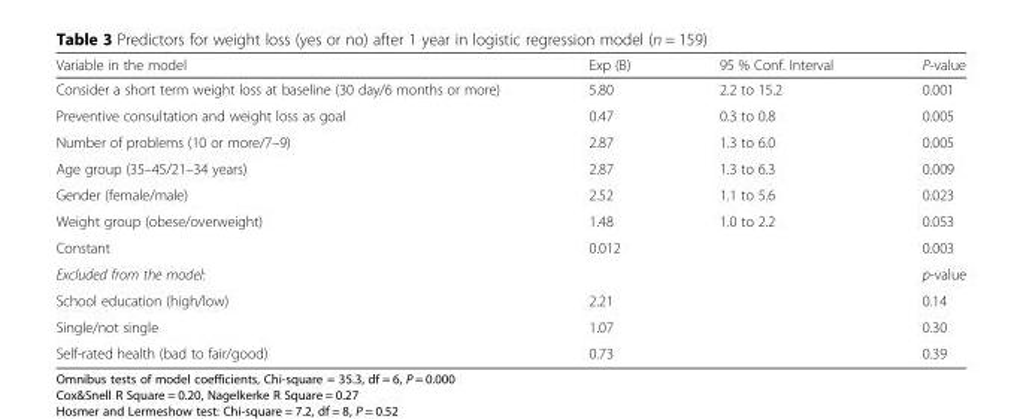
<table><thead><tr><td>Variable in the model</td><td>Exp (B)</td><td>95 % Conf. Interval</td><td>P-value</td></tr></thead><tbody><tr><td>Consider a short term weight loss at baseline (30 day/6 months or more)</td><td>5.80</td><td>2.2 to 15.2</td><td>0.001</td></tr><tr><td>Preventive consultation and weight loss as goal</td><td>0.47</td><td>0.3 to 0.8</td><td>0.005</td></tr><tr><td>Number of problems (10 or more/7–9)</td><td>2.87</td><td>1.3 to 6.0</td><td>0.005</td></tr><tr><td>Age group (35–45/21–34 years)</td><td>2.87</td><td>1.3 to 6.3</td><td>0.009</td></tr><tr><td>Gender (female/male)</td><td>2.52</td><td>1.1 to 5.6</td><td>0.023</td></tr><tr><td>Weight group (obese/overweight)</td><td>1.48</td><td>1.0 to 2.2</td><td>0.053</td></tr><tr><td>Constant</td><td>0.012</td><td></td><td>0.003</td></tr><tr><td>Excluded from the model:</td><td></td><td></td><td>p-value</td></tr><tr><td>School education (high/low)</td><td>2.21</td><td></td><td>0.14</td></tr><tr><td>Single/not single</td><td>1.07</td><td></td><td>0.30</td></tr><tr><td>Self-rated health (bad to fair/good)</td><td>0.73</td><td></td><td>0.39</td></tr></tbody></table>